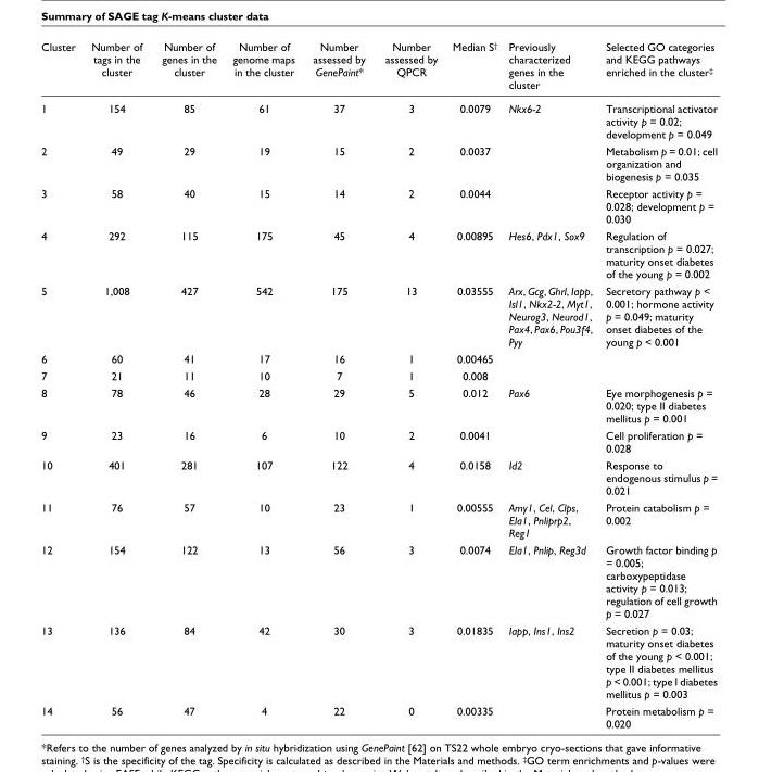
<table><thead><tr><td>Cluster</td><td>Number of tags in the cluster</td><td>Number of genes in the cluster</td><td>Number of genome maps in the cluster</td><td>Number assessed by GenePaint*</td><td>Number assessed by QPCR</td><td>Median S<sup>†</sup></td><td>Previously characterized genes in the cluster</td><td>Selected GO categories and KEGG pathways enriched in the cluster<sup>‡</sup></td></tr></thead><tbody><tr><td>1</td><td>154</td><td>85</td><td>61</td><td>37</td><td>3</td><td>0.0079</td><td>Nkx6-2</td><td>Transcriptional activator activity p = 0.02; development p = 0.049</td></tr><tr><td>2</td><td>49</td><td>29</td><td>19</td><td>15</td><td>2</td><td>0.0037</td><td></td><td>Metabolism p = 0.01; cell organization and biogenesis p = 0.035</td></tr><tr><td>3</td><td>58</td><td>40</td><td>15</td><td>14</td><td>2</td><td>0.0044</td><td></td><td>Receptor activity p = 0.028; development p = 0.030</td></tr><tr><td>4</td><td>292</td><td>115</td><td>175</td><td>45</td><td>4</td><td>0.00895</td><td>Hes6, Pdx1, Sox9</td><td>Regulation of transcription p = 0.027; maturity onset diabetes of the young p = 0.002</td></tr><tr><td>5</td><td>1,008</td><td>427</td><td>542</td><td>175</td><td>13</td><td>0.03555</td><td>Arx, Gcg, Ghrl, Iapp, Isl1, Nkx2-2, Myt1, Neurog3, Neurod1, Pax4, Pax6, Pou3f4, Pyy</td><td>Secretory pathway p &lt; 0.001; hormone activity p = 0.049; maturity onset diabetes of the young p &lt; 0.001</td></tr><tr><td>6</td><td>60</td><td>41</td><td>17</td><td>16</td><td>1</td><td>0.00465</td><td></td><td></td></tr><tr><td>7</td><td>21</td><td>11</td><td>10</td><td>7</td><td>1</td><td>0.008</td><td></td><td></td></tr><tr><td>8</td><td>78</td><td>46</td><td>28</td><td>29</td><td>5</td><td>0.012</td><td>Pax6</td><td>Eye morphogenesis p = 0.020; type II diabetes mellitus p = 0.001</td></tr><tr><td>9</td><td>23</td><td>16</td><td>6</td><td>10</td><td>2</td><td>0.0041</td><td></td><td>Cell proliferation p = 0.028</td></tr><tr><td>10</td><td>401</td><td>281</td><td>107</td><td>122</td><td>4</td><td>0.0158</td><td>Id2</td><td>Response to endogenous stimulus p = 0.021</td></tr><tr><td>11</td><td>76</td><td>57</td><td>10</td><td>23</td><td>1</td><td>0.00555</td><td>Amy1, Cel, Clps, Ela1, Pnliprp2, Reg1</td><td>Protein catabolism p = 0.002</td></tr><tr><td>12</td><td>154</td><td>122</td><td>13</td><td>56</td><td>3</td><td>0.0074</td><td>Ela1, Pnlip, Reg3d</td><td>Growth factor binding p = 0.005; carboxypeptidase activity p = 0.013; regulation of cell growth p = 0.027</td></tr><tr><td>13</td><td>136</td><td>84</td><td>42</td><td>30</td><td>3</td><td>0.01835</td><td>Iapp, Ins1, Ins2</td><td>Secretion p = 0.03; maturity onset diabetes of the young p &lt; 0.001; type II diabetes mellitus p &lt; 0.001; type I diabetes mellitus p = 0.003</td></tr><tr><td>14</td><td>56</td><td>47</td><td>4</td><td>22</td><td>0</td><td>0.00335</td><td></td><td>Protein metabolism p = 0.020</td></tr></tbody></table>